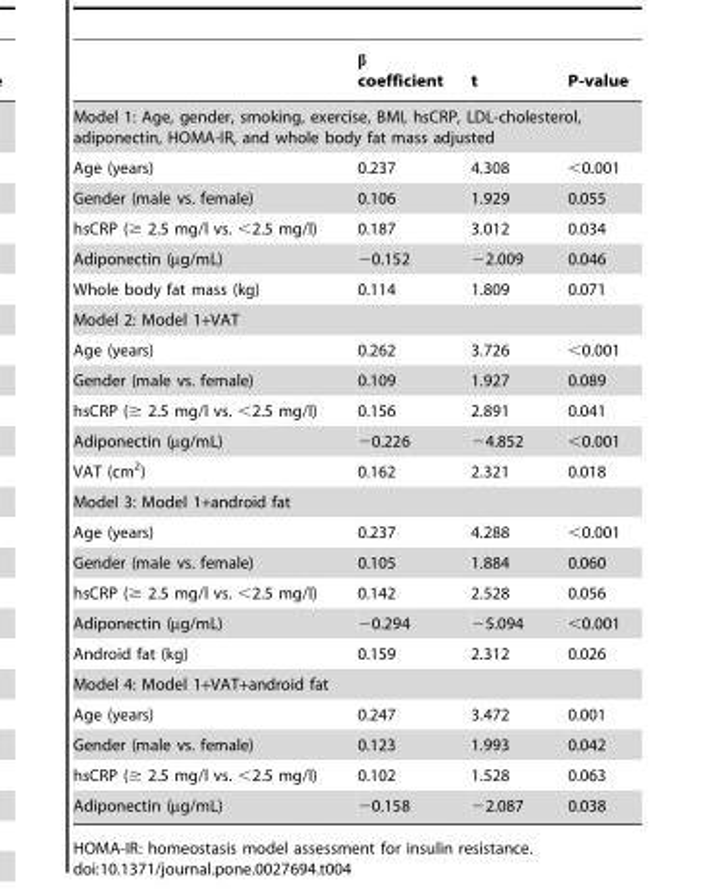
<table><thead><tr><td></td><td>coefficient</td><td>t</td><td>P-value</td></tr></thead><tbody><tr><td colspan="4">Model 1: Age, gender, smoking, exercise, BMI, hsCRP, LDL-cholesterol, adiponectin, HOMA-IR, and whole body fat mass adjusted</td></tr><tr><td>Age (years)</td><td>0.237</td><td>4.308</td><td>&lt;0.001</td></tr><tr><td>Gender (male vs. female)</td><td>0.106</td><td>1.929</td><td>0.055</td></tr><tr><td>hsCRP (≥ 2.5 mg/l vs. &lt;2.5 mg/l)</td><td>0.187</td><td>3.012</td><td>0.034</td></tr><tr><td>Adiponectin (µg/mL)</td><td>−0.152</td><td>−2.009</td><td>0.046</td></tr><tr><td>Whole body fat mass (kg)</td><td>0.114</td><td>1.809</td><td>0.071</td></tr><tr><td colspan="4">Model 2: Model 1+VAT</td></tr><tr><td>Age (years)</td><td>0.262</td><td>3.726</td><td>&lt;0.001</td></tr><tr><td>Gender (male vs. female)</td><td>0.109</td><td>1.927</td><td>0.089</td></tr><tr><td>hsCRP (≥ 2.5 mg/l vs. &lt;2.5 mg/l)</td><td>0.156</td><td>2.891</td><td>0.041</td></tr><tr><td>Adiponectin (µg/mL)</td><td>−0.226</td><td>−4.852</td><td>&lt;0.001</td></tr><tr><td>VAT (cm<sup>2</sup>)</td><td>0.162</td><td>2.321</td><td>0.018</td></tr><tr><td colspan="4">Model 3: Model 1+android fat</td></tr><tr><td>Age (years)</td><td>0.237</td><td>4.288</td><td>&lt;0.001</td></tr><tr><td>Gender (male vs. female)</td><td>0.105</td><td>1.884</td><td>0.060</td></tr><tr><td>hsCRP (≥ 2.5 mg/l vs. &lt;2.5 mg/l)</td><td>0.142</td><td>2.528</td><td>0.056</td></tr><tr><td>Adiponectin (µg/mL)</td><td>−0.294</td><td>−5.094</td><td>&lt;0.001</td></tr><tr><td>Android fat (kg)</td><td>0.159</td><td>2.312</td><td>0.026</td></tr><tr><td colspan="4">Model 4: Model 1+VAT+android fat</td></tr><tr><td>Age (years)</td><td>0.247</td><td>3.472</td><td>0.001</td></tr><tr><td>Gender (male vs. female)</td><td>0.123</td><td>1.993</td><td>0.042</td></tr><tr><td>hsCRP (≥ 2.5 mg/l vs. &lt;2.5 mg/l)</td><td>0.102</td><td>1.528</td><td>0.063</td></tr><tr><td>Adiponectin (µg/mL)</td><td>−0.158</td><td>−2.087</td><td>0.038</td></tr></tbody></table>